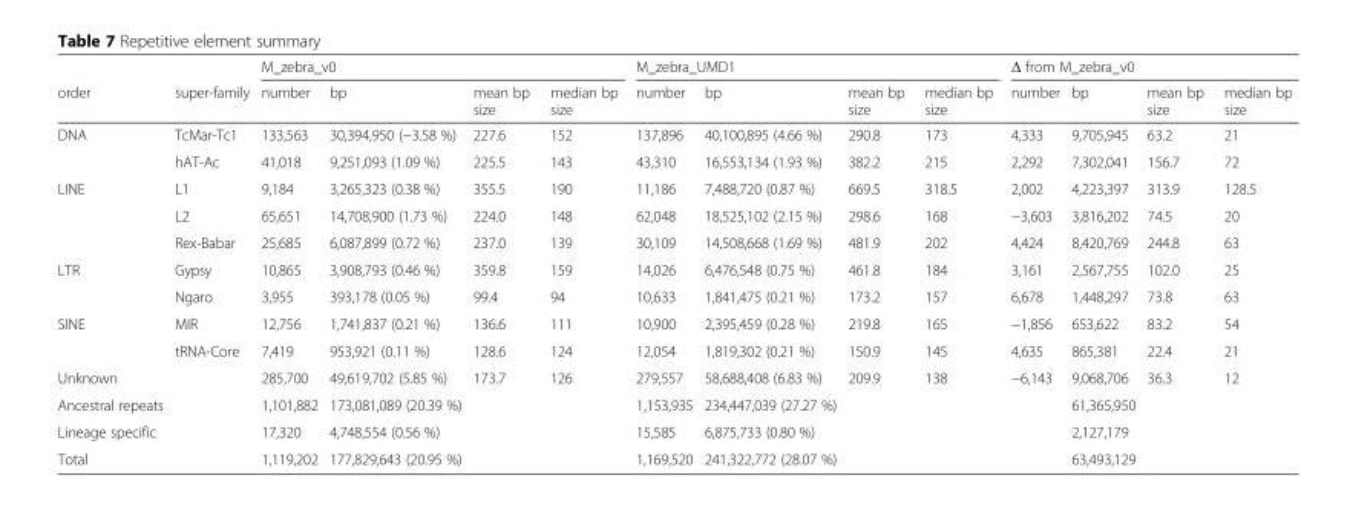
<table><thead><tr><td rowspan="2">order</td><td rowspan="2">super-family</td><td colspan="4">M_zebra_v0</td><td colspan="4">M_zebra_UMD1</td><td colspan="4">Δ from M_zebra_v0</td></tr><tr><td>number</td><td>bp</td><td>mean bp size</td><td>median bp size</td><td>number</td><td>bp</td><td>mean bp size</td><td>median bp size</td><td>number</td><td>bp</td><td>mean bp size</td><td>median bp size</td></tr></thead><tbody><tr><td rowspan="2">DNA</td><td>TcMar-Tc1</td><td>133,563</td><td>30,394,950 (−3.58 %)</td><td>227.6</td><td>152</td><td>137,896</td><td>40,100,895 (4.66 %)</td><td>290.8</td><td>173</td><td>4,333</td><td>9,705,945</td><td>63.2</td><td>21</td></tr><tr><td>hAT-Ac</td><td>41,018</td><td>9,251,093 (1.09 %)</td><td>225.5</td><td>143</td><td>43,310</td><td>16,553,134 (1.93 %)</td><td>382.2</td><td>215</td><td>2,292</td><td>7,302,041</td><td>156.7</td><td>72</td></tr><tr><td rowspan="3">LINE</td><td>L1</td><td>9,184</td><td>3,265,323 (0.38 %)</td><td>355.5</td><td>190</td><td>11,186</td><td>7,488,720 (0.87 %)</td><td>669.5</td><td>318.5</td><td>2,002</td><td>4,223,397</td><td>313.9</td><td>128.5</td></tr><tr><td>L2</td><td>65,651</td><td>14,708,900 (1.73 %)</td><td>224.0</td><td>148</td><td>62,048</td><td>18,525,102 (2.15 %)</td><td>298.6</td><td>168</td><td>−3,603</td><td>3,816,202</td><td>74.5</td><td>20</td></tr><tr><td>Rex-Babar</td><td>25,685</td><td>6,087,899 (0.72 %)</td><td>237.0</td><td>139</td><td>30,109</td><td>14,508,668 (1.69 %)</td><td>481.9</td><td>202</td><td>4,424</td><td>8,420,769</td><td>244.8</td><td>63</td></tr><tr><td rowspan="2">LTR</td><td>Gypsy</td><td>10,865</td><td>3,908,793 (0.46 %)</td><td>359.8</td><td>159</td><td>14,026</td><td>6,476,548 (0.75 %)</td><td>461.8</td><td>184</td><td>3,161</td><td>2,567,755</td><td>102.0</td><td>25</td></tr><tr><td>Ngaro</td><td>3,955</td><td>393,178 (0.05 %)</td><td>99.4</td><td>94</td><td>10,633</td><td>1,841,475 (0.21 %)</td><td>173.2</td><td>157</td><td>6,678</td><td>1,448,297</td><td>73.8</td><td>63</td></tr><tr><td rowspan="2">SINE</td><td>MIR</td><td>12,756</td><td>1,741,837 (0.21 %)</td><td>136.6</td><td>111</td><td>10,900</td><td>2,395,459 (0.28 %)</td><td>219.8</td><td>165</td><td>−1,856</td><td>653,622</td><td>83.2</td><td>54</td></tr><tr><td>tRNA-Core</td><td>7,419</td><td>953,921 (0.11 %)</td><td>128.6</td><td>124</td><td>12,054</td><td>1,819,302 (0.21 %)</td><td>150.9</td><td>145</td><td>4,635</td><td>865,381</td><td>22.4</td><td>21</td></tr><tr><td>Unknown</td><td></td><td>285,700</td><td>49,619,702 (5.85 %)</td><td>173.7</td><td>126</td><td>279,557</td><td>58,688,408 (6.83 %)</td><td>209.9</td><td>138</td><td>−6,143</td><td>9,068,706</td><td>36.3</td><td>12</td></tr><tr><td>Ancestral repeats</td><td></td><td>1,101,882</td><td>173,081,089 (20.39 %)</td><td></td><td></td><td>1,153,935</td><td>234,447,039 (27.27 %)</td><td></td><td></td><td></td><td>61,365,950</td><td></td><td></td></tr><tr><td>Lineage specific</td><td></td><td>17,320</td><td>4,748,554 (0.56 %)</td><td></td><td></td><td>15,585</td><td>6,875,733 (0.80 %)</td><td></td><td></td><td></td><td>2,127,179</td><td></td><td></td></tr><tr><td>Total</td><td></td><td>1,119,202</td><td>177,829,643 (20.95 %)</td><td></td><td></td><td>1,169,520</td><td>241,322,772 (28.07 %)</td><td></td><td></td><td></td><td>63,493,129</td><td></td><td></td></tr></tbody></table>